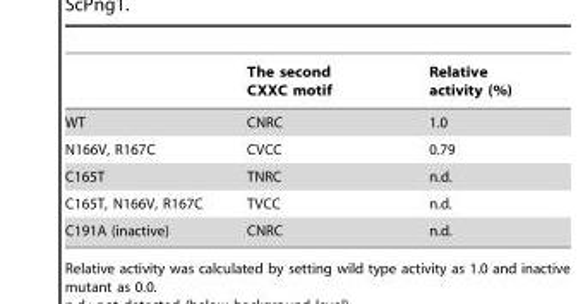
<table><thead><tr><td></td><td>The second CXXC motif</td><td>Relative activity (%)</td></tr></thead><tbody><tr><td>WT</td><td>CNRC</td><td>1.0</td></tr><tr><td>N166V, R167C</td><td>CVCC</td><td>0.79</td></tr><tr><td>C165T</td><td>TNRC</td><td>n.d.</td></tr><tr><td>C165T, N166V, R167C</td><td>TVCC</td><td>n.d.</td></tr><tr><td>C191A (inactive)</td><td>CNRC</td><td>n.d.</td></tr></tbody></table>